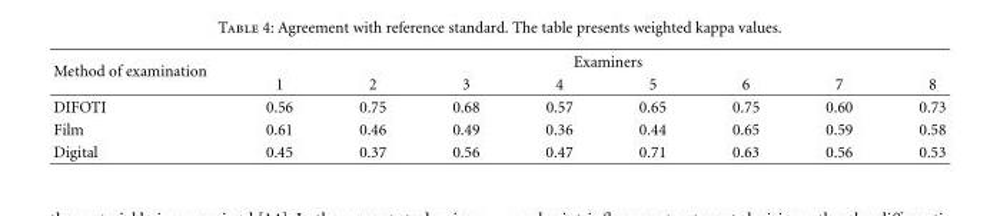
<table><thead><tr><td rowspan="2">Method of examination</td><td colspan="8">Examiners</td></tr><tr><td>1</td><td>2</td><td>3</td><td>4</td><td>5</td><td>6</td><td>7</td><td>8</td></tr></thead><tbody><tr><td>DIFOTI</td><td>0.56</td><td>0.75</td><td>0.68</td><td>0.57</td><td>0.65</td><td>0.75</td><td>0.60</td><td>0.73</td></tr><tr><td>Film</td><td>0.61</td><td>0.46</td><td>0.49</td><td>0.36</td><td>0.44</td><td>0.65</td><td>0.59</td><td>0.58</td></tr><tr><td>Digital</td><td>0.45</td><td>0.37</td><td>0.56</td><td>0.47</td><td>0.71</td><td>0.63</td><td>0.56</td><td>0.53</td></tr></tbody></table>